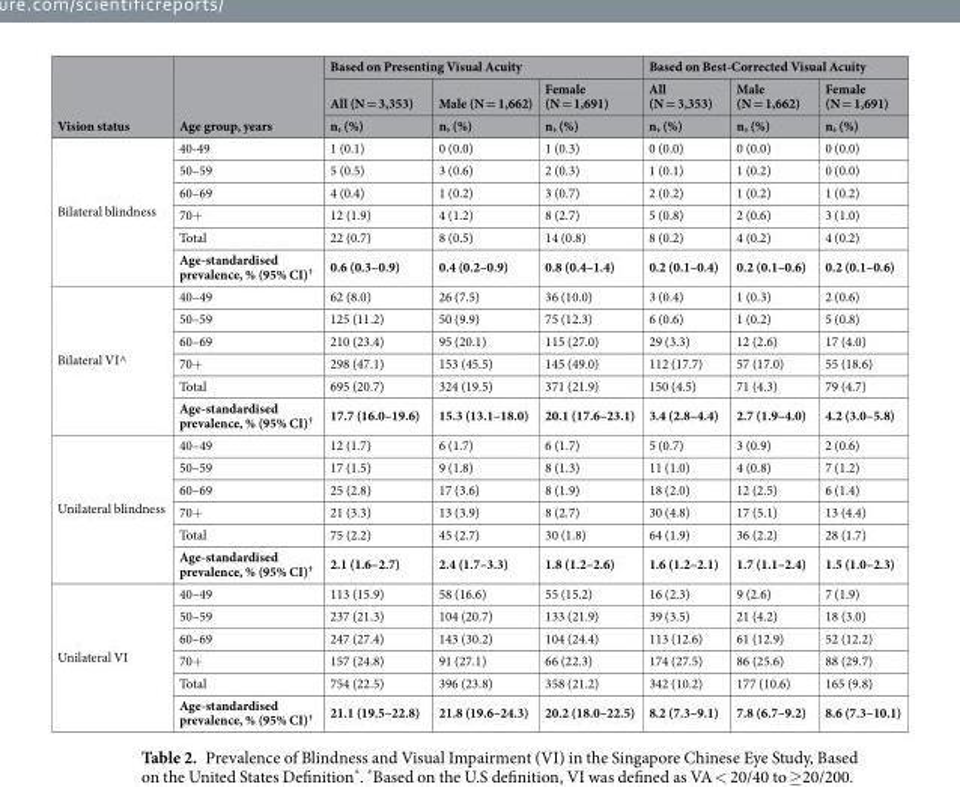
<table><thead><tr><td rowspan="3">Vision status</td><td rowspan="3">Age group, years</td><td colspan="3">Based on Presenting Visual Acuity</td><td colspan="3">Based on Best-Corrected Visual Acuity</td></tr><tr><td rowspan="2">All (N = 3,353) n, (%)</td><td rowspan="2">Male (N = 1,662) n, (%)</td><td rowspan="2">Female (N = 1,691) n, (%)</td><td rowspan="2">All (N = 3,353) n, (%)</td><td rowspan="2">Male (N = 1,662) n, (%)</td><td rowspan="2">Female (N = 1,691) n, (%)</td></tr><tr></tr></thead><tbody><tr><td rowspan="6">Bilateral blindness</td><td>40-49</td><td>1 (0.1)</td><td>0 (0.0)</td><td>1 (0.3)</td><td>0 (0.0)</td><td>0 (0.0)</td><td>0 (0.0)</td></tr><tr><td>50–59</td><td>5 (0.5)</td><td>3 (0.6)</td><td>2 (0.3)</td><td>1 (0.1)</td><td>1 (0.2)</td><td>0 (0.0)</td></tr><tr><td>60–69</td><td>4 (0.4)</td><td>1 (0.2)</td><td>3 (0.7)</td><td>2 (0.2)</td><td>1 (0.2)</td><td>1 (0.2)</td></tr><tr><td>70+</td><td>12 (1.9)</td><td>4 (1.2)</td><td>8 (2.7)</td><td>5 (0.8)</td><td>2 (0.6)</td><td>3 (1.0)</td></tr><tr><td>Total</td><td>22 (0.7)</td><td>8 (0.5)</td><td>14 (0.8)</td><td>8 (0.2)</td><td>4 (0.2)</td><td>4 (0.2)</td></tr><tr><td>Age-standardised prevalence, % (95% CI)<sup>†</sup></td><td>0.6 (0.3–0.9)</td><td>0.4 (0.2–0.9)</td><td>0.8 (0.4–1.4)</td><td>0.2 (0.1–0.4)</td><td>0.2 (0.1–0.6)</td><td>0.2 (0.1–0.6)</td></tr><tr><td rowspan="6">Bilateral VI^</td><td>40–49</td><td>62 (8.0)</td><td>26 (7.5)</td><td>36 (10.0)</td><td>3 (0.4)</td><td>1 (0.3)</td><td>2 (0.6)</td></tr><tr><td>50–59</td><td>125 (11.2)</td><td>50 (9.9)</td><td>75 (12.3)</td><td>6 (0.6)</td><td>1 (0.2)</td><td>5 (0.8)</td></tr><tr><td>60–69</td><td>210 (23.4)</td><td>95 (20.1)</td><td>115 (27.0)</td><td>29 (3.3)</td><td>12 (2.6)</td><td>17 (4.0)</td></tr><tr><td>70+</td><td>298 (47.1)</td><td>153 (45.5)</td><td>145 (49.0)</td><td>112 (17.7)</td><td>57 (17.0)</td><td>55 (18.6)</td></tr><tr><td>Total</td><td>695 (20.7)</td><td>324 (19.5)</td><td>371 (21.9)</td><td>150 (4.5)</td><td>71 (4.3)</td><td>79 (4.7)</td></tr><tr><td>Age-standardised prevalence, % (95% CI)<sup>†</sup></td><td>17.7 (16.0–19.6)</td><td>15.3 (13.1–18.0)</td><td>20.1 (17.6–23.1)</td><td>3.4 (2.8–4.4)</td><td>2.7 (1.9–4.0)</td><td>4.2 (3.0–5.8)</td></tr><tr><td rowspan="6">Unilateral blindness</td><td>40–49</td><td>12 (1.7)</td><td>6 (1.7)</td><td>6 (1.7)</td><td>5 (0.7)</td><td>3 (0.9)</td><td>2 (0.6)</td></tr><tr><td>50–59</td><td>17 (1.5)</td><td>9 (1.8)</td><td>8 (1.3)</td><td>11 (1.0)</td><td>4 (0.8)</td><td>7 (1.2)</td></tr><tr><td>60–69</td><td>25 (2.8)</td><td>17 (3.6)</td><td>8 (1.9)</td><td>18 (2.0)</td><td>12 (2.5)</td><td>6 (1.4)</td></tr><tr><td>70+</td><td>21 (3.3)</td><td>13 (3.9)</td><td>8 (2.7)</td><td>30 (4.8)</td><td>17 (5.1)</td><td>13 (4.4)</td></tr><tr><td>Total</td><td>75 (2.2)</td><td>45 (2.7)</td><td>30 (1.8)</td><td>64 (1.9)</td><td>36 (2.2)</td><td>28 (1.7)</td></tr><tr><td>Age-standardised prevalence, % (95% CI)<sup>†</sup></td><td>2.1 (1.6–2.7)</td><td>2.4 (1.7–3.3)</td><td>1.8 (1.2–2.6)</td><td>1.6 (1.2–2.1)</td><td>1.7 (1.1–2.4)</td><td>1.5 (1.0–2.3)</td></tr><tr><td rowspan="6">Unilateral VI</td><td>40–49</td><td>113 (15.9)</td><td>58 (16.6)</td><td>55 (15.2)</td><td>16 (2.3)</td><td>9 (2.6)</td><td>7 (1.9)</td></tr><tr><td>50–59</td><td>237 (21.3)</td><td>104 (20.7)</td><td>133 (21.9)</td><td>39 (3.5)</td><td>21 (4.2)</td><td>18 (3.0)</td></tr><tr><td>60–69</td><td>247 (27.4)</td><td>143 (30.2)</td><td>104 (24.4)</td><td>113 (12.6)</td><td>61 (12.9)</td><td>52 (12.2)</td></tr><tr><td>70+</td><td>157 (24.8)</td><td>91 (27.1)</td><td>66 (22.3)</td><td>174 (27.5)</td><td>86 (25.6)</td><td>88 (29.7)</td></tr><tr><td>Total</td><td>754 (22.5)</td><td>396 (23.8)</td><td>358 (21.2)</td><td>342 (10.2)</td><td>177 (10.6)</td><td>165 (9.8)</td></tr><tr><td>Age-standardised prevalence, % (95% CI)<sup>†</sup></td><td>21.1 (19.5–22.8)</td><td>21.8 (19.6–24.3)</td><td>20.2 (18.0–22.5)</td><td>8.2 (7.3–9.1)</td><td>7.8 (6.7–9.2)</td><td>8.6 (7.3–10.1)</td></tr></tbody></table>